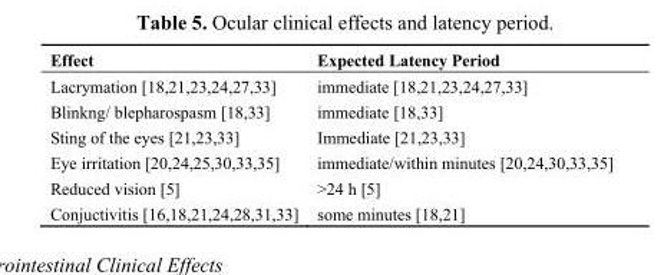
<table><thead><tr><td>Effect</td><td>Expected Latency Period</td></tr></thead><tbody><tr><td>Lacrymation [18,21,23,24,27,33]</td><td>immediate [18,21,23,24,27,33]</td></tr><tr><td>Blinkng/ blepharospasm [18,33]</td><td>immediate [18,33]</td></tr><tr><td>Sting of the eyes [21,23,33]</td><td>Immediate [21,23,33]</td></tr><tr><td>Eye irritation [20,24,25,30,33,35]</td><td>immediate/within minutes [20,24,30,33,35]</td></tr><tr><td>Reduced vision [5]</td><td>&gt;24 h [5]</td></tr><tr><td>Conjuctivitis [16,18,21,24,28,31,33]</td><td>some minutes [18,21]</td></tr></tbody></table>